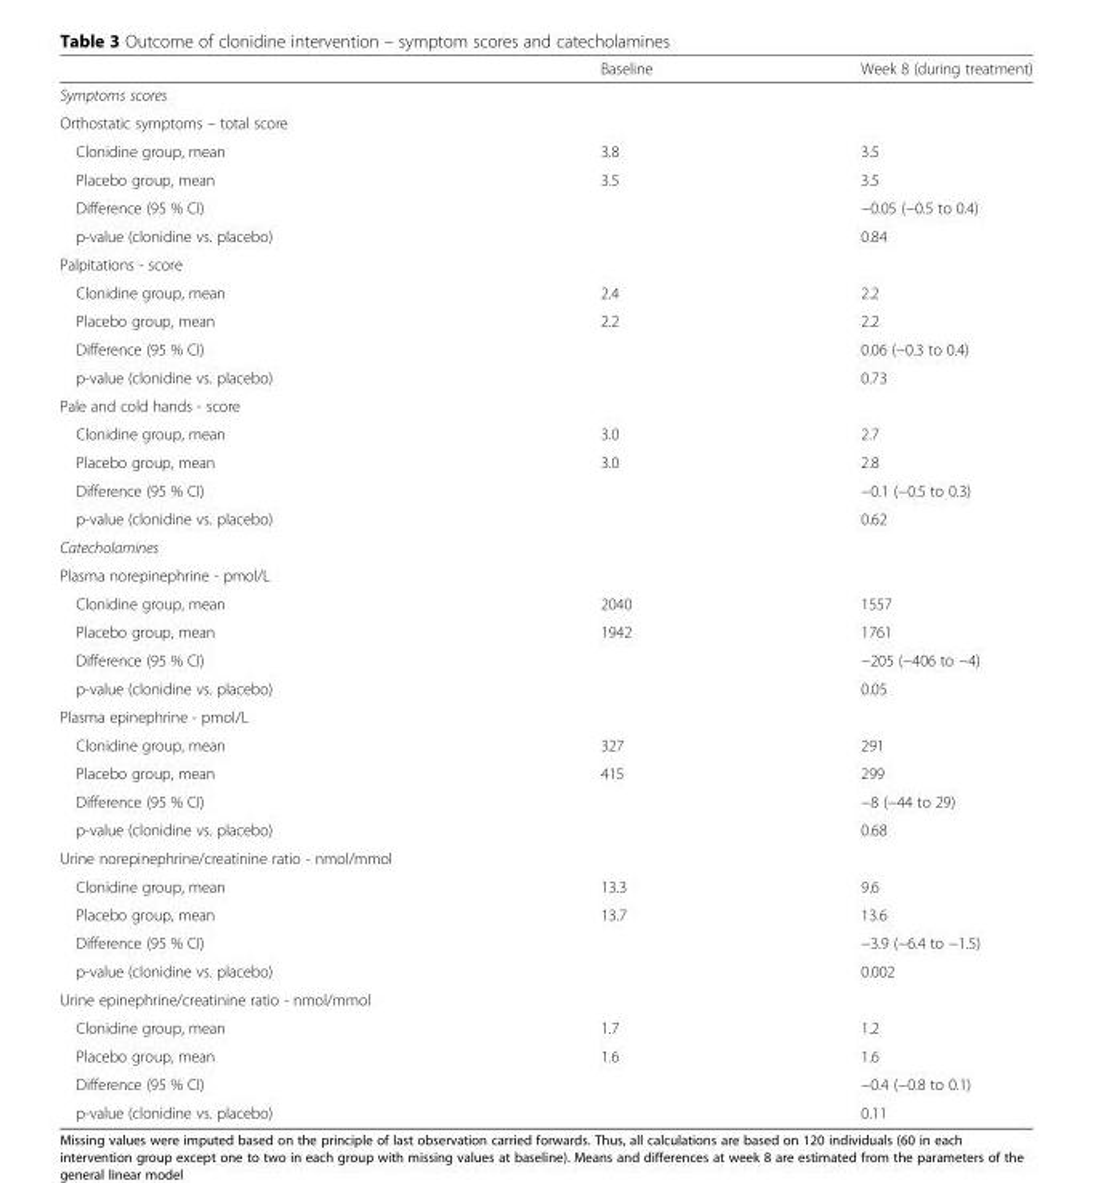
<table><thead><tr><td></td><td>Baseline</td><td>Week 8 (during treatment)</td></tr></thead><tbody><tr><td colspan="3">Symptoms scores</td></tr><tr><td colspan="3">Orthostatic symptoms – total score</td></tr><tr><td>Clonidine group, mean</td><td>3.8</td><td>3.5</td></tr><tr><td>Placebo group, mean</td><td>3.5</td><td>3.5</td></tr><tr><td>Difference (95 % CI)</td><td></td><td>−0.05 (−0.5 to 0.4)</td></tr><tr><td>p-value (clonidine vs. placebo)</td><td></td><td>0.84</td></tr><tr><td colspan="3">Palpitations - score</td></tr><tr><td>Clonidine group, mean</td><td>2.4</td><td>2.2</td></tr><tr><td>Placebo group, mean</td><td>2.2</td><td>2.2</td></tr><tr><td>Difference (95 % CI)</td><td></td><td>0.06 (−0.3 to 0.4)</td></tr><tr><td>p-value (clonidine vs. placebo)</td><td></td><td>0.73</td></tr><tr><td colspan="3">Pale and cold hands - score</td></tr><tr><td>Clonidine group, mean</td><td>3.0</td><td>2.7</td></tr><tr><td>Placebo group, mean</td><td>3.0</td><td>2.8</td></tr><tr><td>Difference (95 % CI)</td><td></td><td>−0.1 (−0.5 to 0.3)</td></tr><tr><td>p-value (clonidine vs. placebo)</td><td></td><td>0.62</td></tr><tr><td colspan="3">Catecholamines</td></tr><tr><td colspan="3">Plasma norepinephrine - pmol/L</td></tr><tr><td>Clonidine group, mean</td><td>2040</td><td>1557</td></tr><tr><td>Placebo group, mean</td><td>1942</td><td>1761</td></tr><tr><td>Difference (95 % CI)</td><td></td><td>−205 (−406 to −4)</td></tr><tr><td>p-value (clonidine vs. placebo)</td><td></td><td>0.05</td></tr><tr><td colspan="3">Plasma epinephrine - pmol/L</td></tr><tr><td>Clonidine group, mean</td><td>327</td><td>291</td></tr><tr><td>Placebo group, mean</td><td>415</td><td>299</td></tr><tr><td>Difference (95 % CI)</td><td></td><td>−8 (−44 to 29)</td></tr><tr><td>p-value (clonidine vs. placebo)</td><td></td><td>0.68</td></tr><tr><td colspan="3">Urine norepinephrine/creatinine ratio - nmol/mmol</td></tr><tr><td>Clonidine group, mean</td><td>13.3</td><td>9.6</td></tr><tr><td>Placebo group, mean</td><td>13.7</td><td>13.6</td></tr><tr><td>Difference (95 % CI)</td><td></td><td>−3.9 (−6.4 to −1.5)</td></tr><tr><td>p-value (clonidine vs. placebo)</td><td></td><td>0.002</td></tr><tr><td colspan="3">Urine epinephrine/creatinine ratio - nmol/mmol</td></tr><tr><td>Clonidine group, mean</td><td>1.7</td><td>1.2</td></tr><tr><td>Placebo group, mean</td><td>1.6</td><td>1.6</td></tr><tr><td>Difference (95 % CI)</td><td></td><td>−0.4 (−0.8 to 0.1)</td></tr><tr><td>p-value (clonidine vs. placebo)</td><td></td><td>0.11</td></tr></tbody></table>